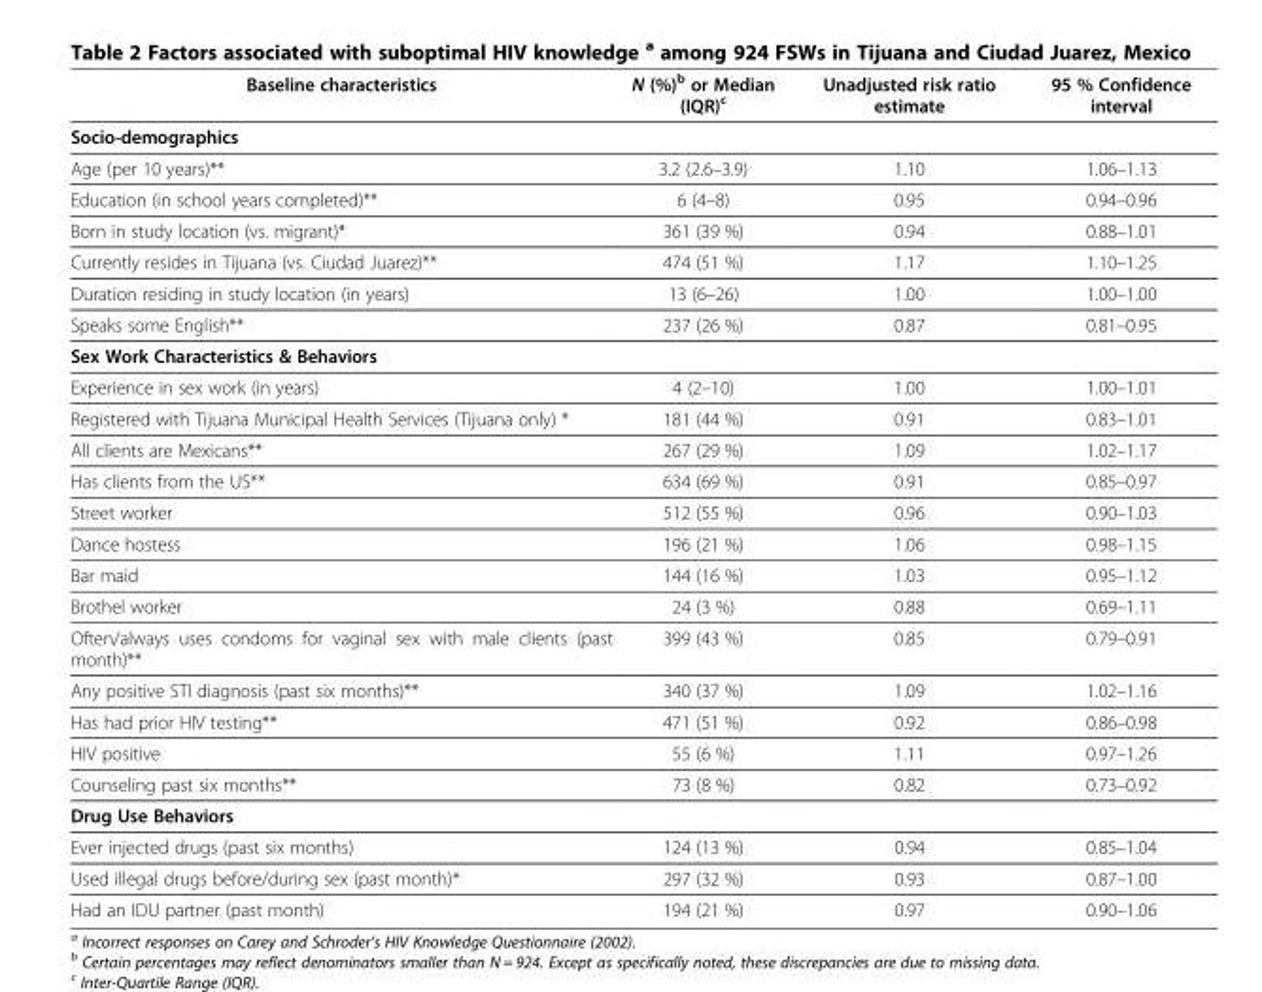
<table><thead><tr><td>Baseline characteristics</td><td>N (%)<sup>b</sup> or Median (IQR)<sup>c</sup></td><td>Unadjusted risk ratio estimate</td><td>95 % Confidence interval</td></tr></thead><tbody><tr><td colspan="4">Socio-demographics</td></tr><tr><td>Age (per 10 years)**</td><td>3.2 (2.6–3.9)</td><td>1.10</td><td>1.06–1.13</td></tr><tr><td>Education (in school years completed)**</td><td>6 (4–8)</td><td>0.95</td><td>0.94–0.96</td></tr><tr><td>Born in study location (vs. migrant)*</td><td>361 (39 %)</td><td>0.94</td><td>0.88–1.01</td></tr><tr><td>Currently resides in Tijuana (vs. Ciudad Juarez)**</td><td>474 (51 %)</td><td>1.17</td><td>1.10–1.25</td></tr><tr><td>Duration residing in study location (in years)</td><td>13 (6–26)</td><td>1.00</td><td>1.00–1.00</td></tr><tr><td>Speaks some English**</td><td>237 (26 %)</td><td>0.87</td><td>0.81–0.95</td></tr><tr><td colspan="4">Sex Work Characteristics &amp; Behaviors</td></tr><tr><td>Experience in sex work (in years)</td><td>4 (2–10)</td><td>1.00</td><td>1.00–1.01</td></tr><tr><td>Registered with Tijuana Municipal Health Services (Tijuana only) *</td><td>181 (44 %)</td><td>0.91</td><td>0.83–1.01</td></tr><tr><td>All clients are Mexicans**</td><td>267 (29 %)</td><td>1.09</td><td>1.02–1.17</td></tr><tr><td>Has clients from the US**</td><td>634 (69 %)</td><td>0.91</td><td>0.85–0.97</td></tr><tr><td>Street worker</td><td>512 (55 %)</td><td>0.96</td><td>0.90–1.03</td></tr><tr><td>Dance hostess</td><td>196 (21 %)</td><td>1.06</td><td>0.98–1.15</td></tr><tr><td>Bar maid</td><td>144 (16 %)</td><td>1.03</td><td>0.95–1.12</td></tr><tr><td>Brothel worker</td><td>24 (3 %)</td><td>0.88</td><td>0.69–1.11</td></tr><tr><td>Often/always uses condoms for vaginal sex with male clients (past month)**</td><td>399 (43 %)</td><td>0.85</td><td>0.79–0.91</td></tr><tr><td>Any positive STI diagnosis (past six months)**</td><td>340 (37 %)</td><td>1.09</td><td>1.02–1.16</td></tr><tr><td>Has had prior HIV testing**</td><td>471 (51 %)</td><td>0.92</td><td>0.86–0.98</td></tr><tr><td>HIV positive</td><td>55 (6 %)</td><td>1.11</td><td>0.97–1.26</td></tr><tr><td>Counseling past six months**</td><td>73 (8 %)</td><td>0.82</td><td>0.73–0.92</td></tr><tr><td colspan="4">Drug Use Behaviors</td></tr><tr><td>Ever injected drugs (past six months)</td><td>124 (13 %)</td><td>0.94</td><td>0.85–1.04</td></tr><tr><td>Used illegal drugs before/during sex (past month)*</td><td>297 (32 %)</td><td>0.93</td><td>0.87–1.00</td></tr><tr><td>Had an IDU partner (past month)</td><td>194 (21 %)</td><td>0.97</td><td>0.90–1.06</td></tr></tbody></table>